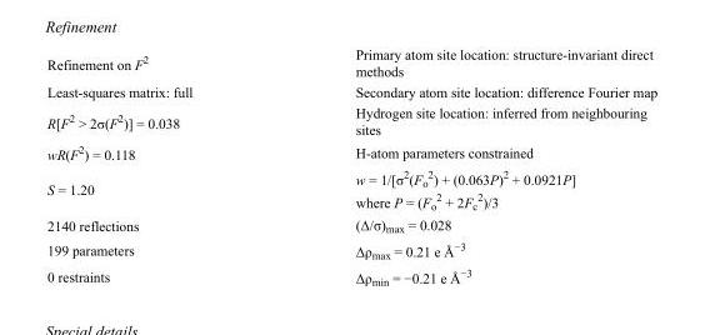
<table><tbody><tr><td>Refinement on F<sup>2</sup></td><td>Primary atom site location: structure-invariant direct methods</td></tr><tr><td>Least-squares matrix: full</td><td>Secondary atom site location: difference Fourier map</td></tr><tr><td>R[F<sup>2</sup> &gt; 2σ(F<sup>2</sup>)] = 0.038</td><td>Hydrogen site location: inferred from neighbouring sites</td></tr><tr><td>wR(F<sup>2</sup>) = 0.118</td><td>H-atom parameters constrained</td></tr><tr><td>S = 1.20</td><td>w = 1/[σ<sup>2</sup>(F<sub>o</sub> <sup>2</sup>) + (0.063P)<sup>2</sup> + 0.0921P] where P = (F<sub>o</sub> <sup>2</sup> + 2F<sub>c</sub> <sup>2</sup>)/3</td></tr><tr><td>2140 reflections</td><td>(Δ/σ)<sub>max</sub> = 0.028</td></tr><tr><td>199 parameters</td><td>Δρ<sub>max</sub> = 0.21 e Å<sup>−3</sup></td></tr><tr><td>0 restraints</td><td>Δρ<sub>min</sub> = −0.21 e Å<sup>−3</sup></td></tr></tbody></table>